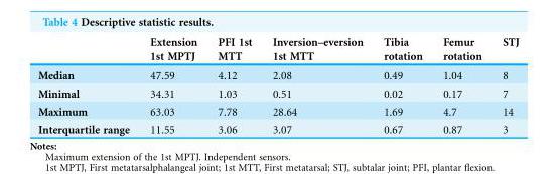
<table><thead><tr><td></td><td>Extension 1st MPTJ</td><td>PFI 1st MTT</td><td>Inversion–eversion 1st MTT</td><td>Tibia rotation</td><td>Femur rotation</td><td>STJ</td></tr></thead><tbody><tr><td>Median</td><td>47.59</td><td>4.12</td><td>2.08</td><td>0.49</td><td>1.04</td><td>8</td></tr><tr><td>Minimal</td><td>34.31</td><td>1.03</td><td>0.51</td><td>0.02</td><td>0.17</td><td>7</td></tr><tr><td>Maximum</td><td>63.03</td><td>7.78</td><td>28.64</td><td>1.69</td><td>4.7</td><td>14</td></tr><tr><td>Interquartile range</td><td>11.55</td><td>3.06</td><td>3.07</td><td>0.67</td><td>0.87</td><td>3</td></tr></tbody></table>